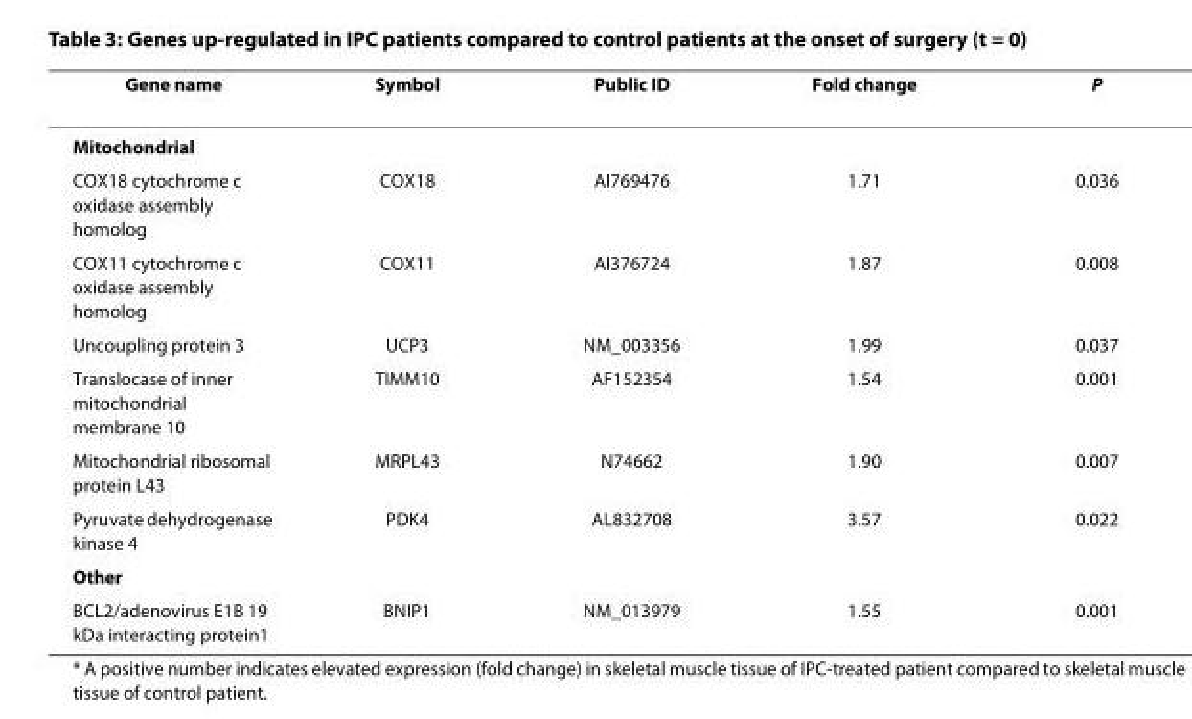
<table><thead><tr><td>Gene name</td><td>Symbol</td><td>Public ID</td><td>Fold change</td><td>P</td></tr></thead><tbody><tr><td colspan="5">Mitochondrial</td></tr><tr><td>COX18 cytochrome c oxidase assembly homolog</td><td>COX18</td><td>AI769476</td><td>1.71</td><td>0.036</td></tr><tr><td>COX11 cytochrome c oxidase assembly homolog</td><td>COX11</td><td>AI376724</td><td>1.87</td><td>0.008</td></tr><tr><td>Uncoupling protein 3</td><td>UCP3</td><td>NM_003356</td><td>1.99</td><td>0.037</td></tr><tr><td>Translocase of inner mitochondrial membrane 10</td><td>TIMM10</td><td>AF152354</td><td>1.54</td><td>0.001</td></tr><tr><td>Mitochondrial ribosomal protein L43</td><td>MRPL43</td><td>N74662</td><td>1.90</td><td>0.007</td></tr><tr><td>Pyruvate dehydrogenase kinase 4</td><td>PDK4</td><td>AL832708</td><td>3.57</td><td>0.022</td></tr><tr><td colspan="5">Other</td></tr><tr><td>BCL2/adenovirus E1B 19 kDa interacting protein1</td><td>BNIP1</td><td>NM_013979</td><td>1.55</td><td>0.001</td></tr></tbody></table>